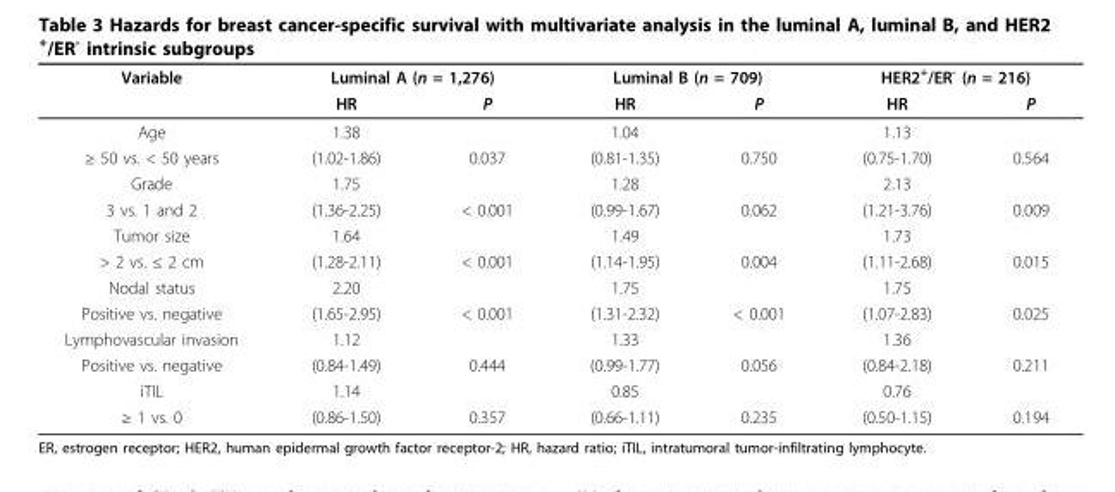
<table><thead><tr><td rowspan="2">Variable</td><td colspan="2">Luminal A (n = 1,276)</td><td colspan="2">Luminal B (n = 709)</td><td colspan="2">HER2<sup>+</sup>/ER<sup>-</sup> (n = 216)</td></tr><tr><td>HR</td><td>P</td><td>HR</td><td>P</td><td>HR</td><td>P</td></tr></thead><tbody><tr><td>Age</td><td>1.38</td><td></td><td>1.04</td><td></td><td>1.13</td><td></td></tr><tr><td>≥ 50 vs. &lt; 50 years</td><td>(1.02-1.86)</td><td>0.037</td><td>(0.81-1.35)</td><td>0.750</td><td>(0.75-1.70)</td><td>0.564</td></tr><tr><td>Grade</td><td>1.75</td><td></td><td>1.28</td><td></td><td>2.13</td><td></td></tr><tr><td>3 vs. 1 and 2</td><td>(1.36-2.25)</td><td>&lt; 0.001</td><td>(0.99-1.67)</td><td>0.062</td><td>(1.21-3.76)</td><td>0.009</td></tr><tr><td>Tumor size</td><td>1.64</td><td></td><td>1.49</td><td></td><td>1.73</td><td></td></tr><tr><td>&gt; 2 vs. ≤ 2 cm</td><td>(1.28-2.11)</td><td>&lt; 0.001</td><td>(1.14-1.95)</td><td>0.004</td><td>(1.11-2.68)</td><td>0.015</td></tr><tr><td>Nodal status</td><td>2.20</td><td></td><td>1.75</td><td></td><td>1.75</td><td></td></tr><tr><td>Positive vs. negative</td><td>(1.65-2.95)</td><td>&lt; 0.001</td><td>(1.31-2.32)</td><td>&lt; 0.001</td><td>(1.07-2.83)</td><td>0.025</td></tr><tr><td>Lymphovascular invasion</td><td>1.12</td><td></td><td>1.33</td><td></td><td>1.36</td><td></td></tr><tr><td>Positive vs. negative</td><td>(0.84-1.49)</td><td>0.444</td><td>(0.99-1.77)</td><td>0.056</td><td>(0.84-2.18)</td><td>0.211</td></tr><tr><td>iTIL</td><td>1.14</td><td></td><td>0.85</td><td></td><td>0.76</td><td></td></tr><tr><td>≥ 1 vs. 0</td><td>(0.86-1.50)</td><td>0.357</td><td>(0.66-1.11)</td><td>0.235</td><td>(0.50-1.15)</td><td>0.194</td></tr></tbody></table>